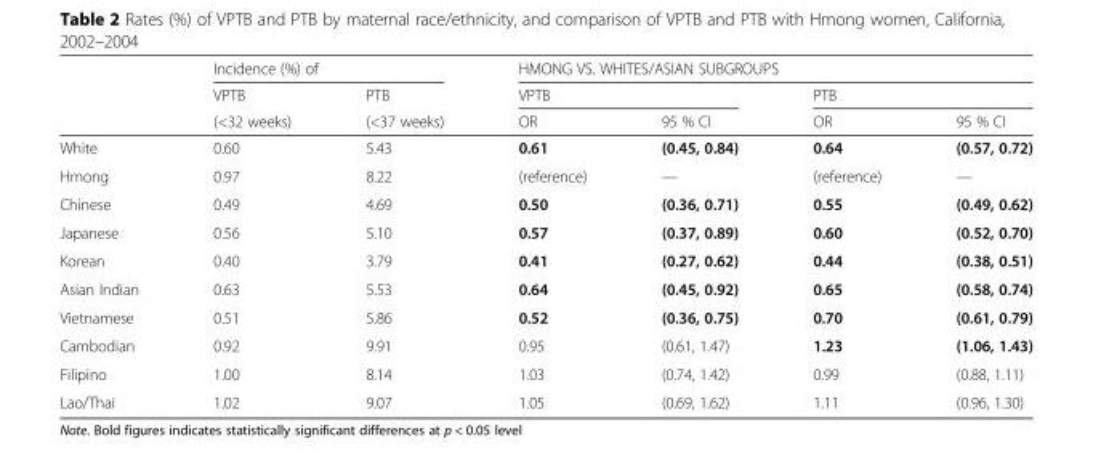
<table><thead><tr><td rowspan="3"></td><td colspan="2">Incidence (%) of</td><td colspan="4">HMONG VS. WHITES/ASIAN SUBGROUPS</td></tr><tr><td rowspan="2">VPTB (&lt;32 weeks)</td><td rowspan="2">PTB (&lt;37 weeks)</td><td colspan="2">VPTB</td><td colspan="2">PTB</td></tr><tr><td>OR</td><td>95 % CI</td><td>OR</td><td>95 % CI</td></tr></thead><tbody><tr><td>White</td><td>0.60</td><td>5.43</td><td>0.61</td><td>(0.45, 0.84)</td><td>0.64</td><td>(0.57, 0.72)</td></tr><tr><td>Hmong</td><td>0.97</td><td>8.22</td><td>(reference)</td><td>—</td><td>(reference)</td><td>—</td></tr><tr><td>Chinese</td><td>0.49</td><td>4.69</td><td>0.50</td><td>(0.36, 0.71)</td><td>0.55</td><td>(0.49, 0.62)</td></tr><tr><td>Japanese</td><td>0.56</td><td>5.10</td><td>0.57</td><td>(0.37, 0.89)</td><td>0.60</td><td>(0.52, 0.70)</td></tr><tr><td>Korean</td><td>0.40</td><td>3.79</td><td>0.41</td><td>(0.27, 0.62)</td><td>0.44</td><td>(0.38, 0.51)</td></tr><tr><td>Asian Indian</td><td>0.63</td><td>5.53</td><td>0.64</td><td>(0.45, 0.92)</td><td>0.65</td><td>(0.58, 0.74)</td></tr><tr><td>Vietnamese</td><td>0.51</td><td>5.86</td><td>0.52</td><td>(0.36, 0.75)</td><td>0.70</td><td>(0.61, 0.79)</td></tr><tr><td>Cambodian</td><td>0.92</td><td>9.91</td><td>0.95</td><td>(0.61, 1.47)</td><td>1.23</td><td>(1.06, 1.43)</td></tr><tr><td>Filipino</td><td>1.00</td><td>8.14</td><td>1.03</td><td>(0.74, 1.42)</td><td>0.99</td><td>(0.88, 1.11)</td></tr><tr><td>Lao/Thai</td><td>1.02</td><td>9.07</td><td>1.05</td><td>(0.69, 1.62)</td><td>1.11</td><td>(0.96, 1.30)</td></tr></tbody></table>